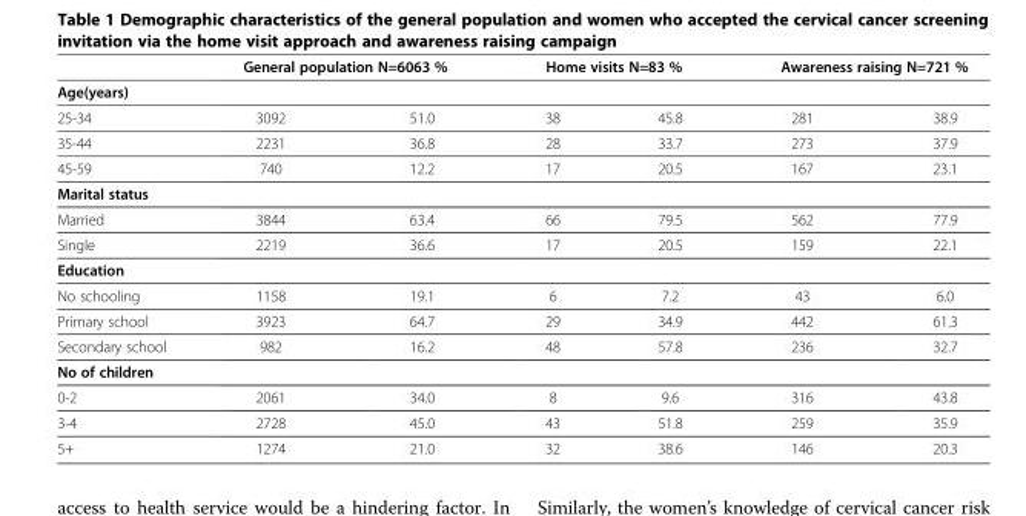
<table><thead><tr><td rowspan="2">Age(years)</td><td colspan="2">General population N=6063 %</td><td colspan="2">Home visits N=83 %</td><td colspan="2">Awareness raising N=721 %</td></tr><tr><td></td><td></td><td></td><td></td><td></td><td></td></tr></thead><tbody><tr><td>25-34</td><td>3092</td><td>51.0</td><td>38</td><td>45.8</td><td>281</td><td>38.9</td></tr><tr><td>35-44</td><td>2231</td><td>36.8</td><td>28</td><td>33.7</td><td>273</td><td>37.9</td></tr><tr><td>45-59</td><td>740</td><td>12.2</td><td>17</td><td>20.5</td><td>167</td><td>23.1</td></tr><tr><td colspan="7">Marital status</td></tr><tr><td>Married</td><td>3844</td><td>63.4</td><td>66</td><td>79.5</td><td>562</td><td>77.9</td></tr><tr><td>Single</td><td>2219</td><td>36.6</td><td>17</td><td>20.5</td><td>159</td><td>22.1</td></tr><tr><td colspan="7">Education</td></tr><tr><td>No schooling</td><td>1158</td><td>19.1</td><td>6</td><td>7.2</td><td>43</td><td>6.0</td></tr><tr><td>Primary school</td><td>3923</td><td>64.7</td><td>29</td><td>34.9</td><td>442</td><td>61.3</td></tr><tr><td>Secondary school</td><td>982</td><td>16.2</td><td>48</td><td>57.8</td><td>236</td><td>32.7</td></tr><tr><td colspan="7">No of children</td></tr><tr><td>0-2</td><td>2061</td><td>34.0</td><td>8</td><td>9.6</td><td>316</td><td>43.8</td></tr><tr><td>3-4</td><td>2728</td><td>45.0</td><td>43</td><td>51.8</td><td>259</td><td>35.9</td></tr><tr><td>5+</td><td>1274</td><td>21.0</td><td>32</td><td>38.6</td><td>146</td><td>20.3</td></tr></tbody></table>